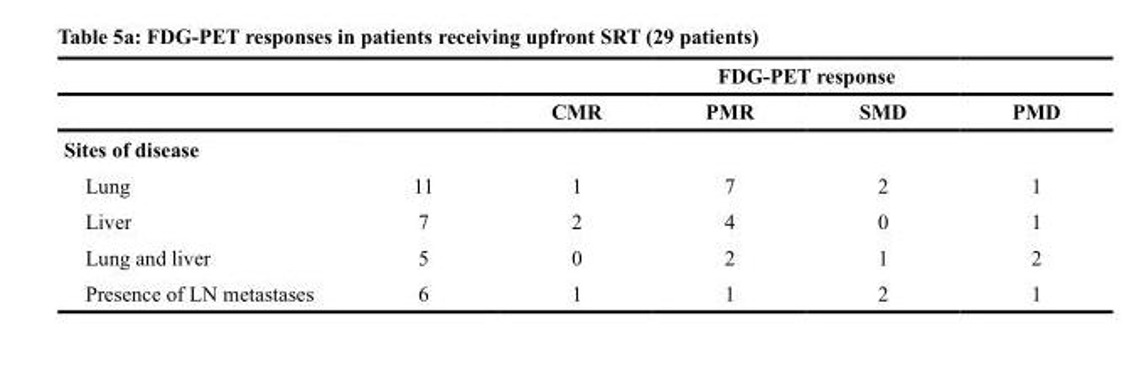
<table><thead><tr><td rowspan="2"></td><td rowspan="2"></td><td colspan="4">FDG-PET response</td></tr><tr><td>CMR</td><td>PMR</td><td>SMD</td><td>PMD</td></tr></thead><tbody><tr><td colspan="6">Sites of disease</td></tr><tr><td>Lung</td><td>11</td><td>1</td><td>7</td><td>2</td><td>1</td></tr><tr><td>Liver</td><td>7</td><td>2</td><td>4</td><td>0</td><td>1</td></tr><tr><td>Lung and liver</td><td>5</td><td>0</td><td>2</td><td>1</td><td>2</td></tr><tr><td>Presence of LN metastases</td><td>6</td><td>1</td><td>1</td><td>2</td><td>1</td></tr></tbody></table>